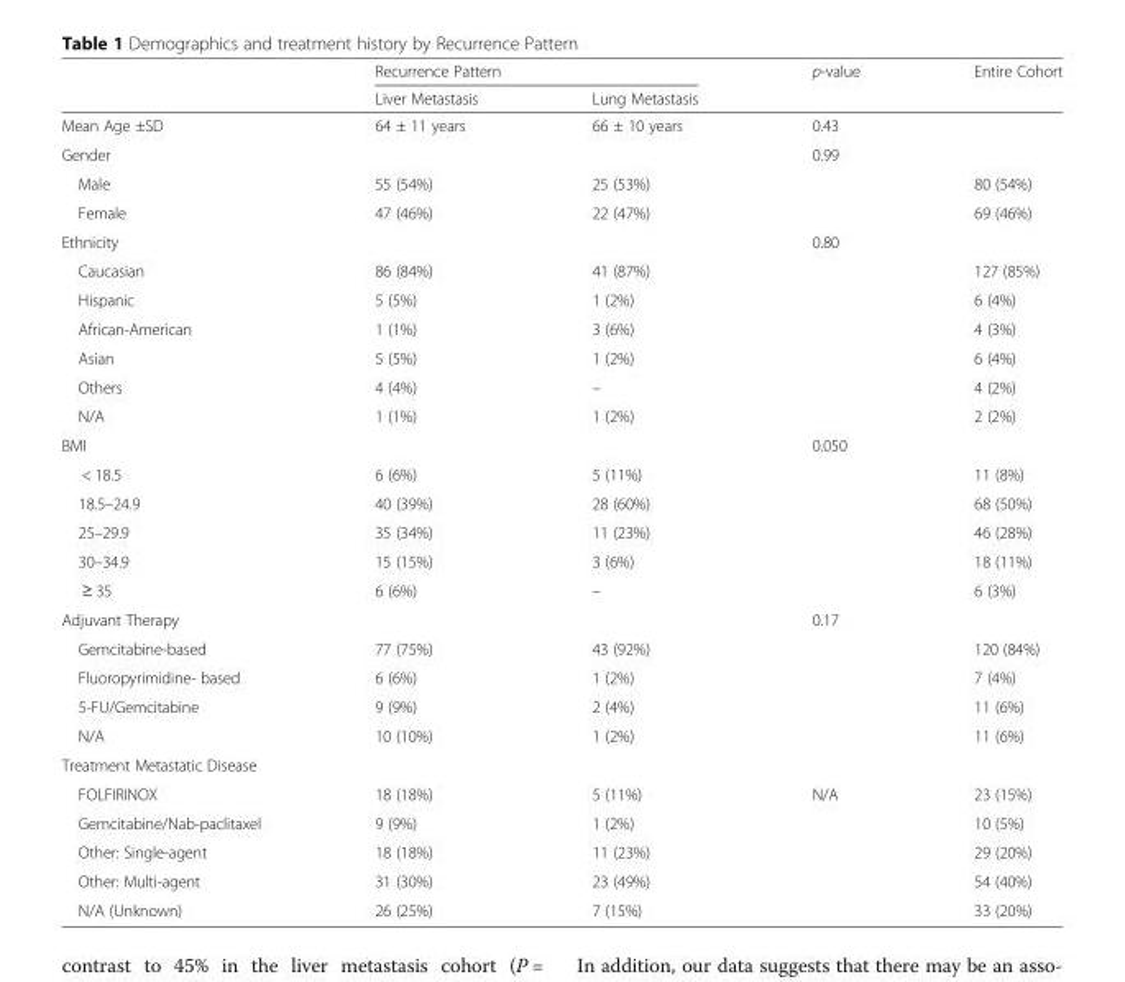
<table><thead><tr><td rowspan="2"></td><td colspan="2">Recurrence Pattern</td><td rowspan="2">p-value</td><td rowspan="2">Entire Cohort</td></tr><tr><td>Liver Metastasis</td><td>Lung Metastasis</td></tr></thead><tbody><tr><td>Mean Age ±SD</td><td>64 ± 11 years</td><td>66 ± 10 years</td><td>0.43</td><td></td></tr><tr><td>Gender</td><td></td><td></td><td>0.99</td><td></td></tr><tr><td>Male</td><td>55 (54%)</td><td>25 (53%)</td><td></td><td>80 (54%)</td></tr><tr><td>Female</td><td>47 (46%)</td><td>22 (47%)</td><td></td><td>69 (46%)</td></tr><tr><td>Ethnicity</td><td></td><td></td><td>0.80</td><td></td></tr><tr><td>Caucasian</td><td>86 (84%)</td><td>41 (87%)</td><td></td><td>127 (85%)</td></tr><tr><td>Hispanic</td><td>5 (5%)</td><td>1 (2%)</td><td></td><td>6 (4%)</td></tr><tr><td>African-American</td><td>1 (1%)</td><td>3 (6%)</td><td></td><td>4 (3%)</td></tr><tr><td>Asian</td><td>5 (5%)</td><td>1 (2%)</td><td></td><td>6 (4%)</td></tr><tr><td>Others</td><td>4 (4%)</td><td>–</td><td></td><td>4 (2%)</td></tr><tr><td>N/A</td><td>1 (1%)</td><td>1 (2%)</td><td></td><td>2 (2%)</td></tr><tr><td>BMI</td><td></td><td></td><td>0.050</td><td></td></tr><tr><td>&lt; 18.5</td><td>6 (6%)</td><td>5 (11%)</td><td></td><td>11 (8%)</td></tr><tr><td>18.5–24.9</td><td>40 (39%)</td><td>28 (60%)</td><td></td><td>68 (50%)</td></tr><tr><td>25–29.9</td><td>35 (34%)</td><td>11 (23%)</td><td></td><td>46 (28%)</td></tr><tr><td>30–34.9</td><td>15 (15%)</td><td>3 (6%)</td><td></td><td>18 (11%)</td></tr><tr><td>≥ 35</td><td>6 (6%)</td><td>–</td><td></td><td>6 (3%)</td></tr><tr><td>Adjuvant Therapy</td><td></td><td></td><td>0.17</td><td></td></tr><tr><td>Gemcitabine-based</td><td>77 (75%)</td><td>43 (92%)</td><td></td><td>120 (84%)</td></tr><tr><td>Fluoropyrimidine- based</td><td>6 (6%)</td><td>1 (2%)</td><td></td><td>7 (4%)</td></tr><tr><td>5-FU/Gemcitabine</td><td>9 (9%)</td><td>2 (4%)</td><td></td><td>11 (6%)</td></tr><tr><td>N/A</td><td>10 (10%)</td><td>1 (2%)</td><td></td><td>11 (6%)</td></tr><tr><td colspan="5">Treatment Metastatic Disease</td></tr><tr><td>FOLFIRINOX</td><td>18 (18%)</td><td>5 (11%)</td><td>N/A</td><td>23 (15%)</td></tr><tr><td>Gemcitabine/Nab-paclitaxel</td><td>9 (9%)</td><td>1 (2%)</td><td></td><td>10 (5%)</td></tr><tr><td>Other: Single-agent</td><td>18 (18%)</td><td>11 (23%)</td><td></td><td>29 (20%)</td></tr><tr><td>Other: Multi-agent</td><td>31 (30%)</td><td>23 (49%)</td><td></td><td>54 (40%)</td></tr><tr><td>N/A (Unknown)</td><td>26 (25%)</td><td>7 (15%)</td><td></td><td>33 (20%)</td></tr></tbody></table>